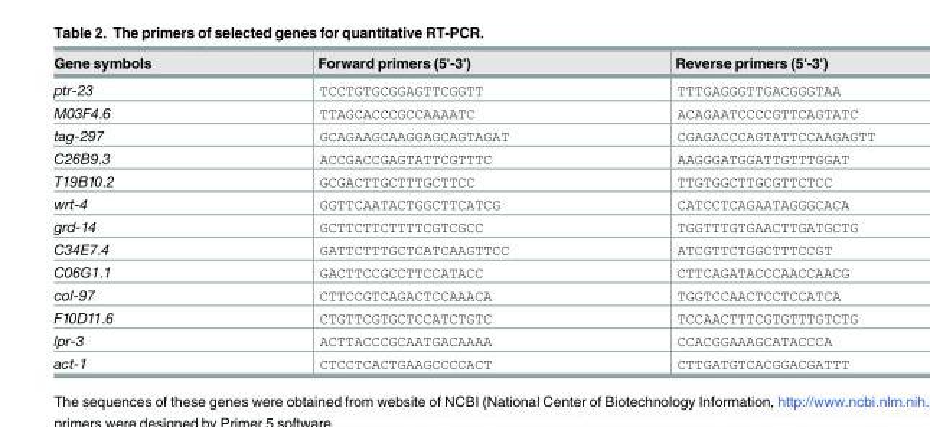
<table><thead><tr><td>Gene symbols</td><td>Forward primers (5&#x27;-3&#x27;)</td><td>Reverse primers (5&#x27;-3&#x27;)</td></tr></thead><tbody><tr><td>ptr-23</td><td>TCCTGTGCGGAGTTCGGTT</td><td>TTTGAGGGTTGACGGGTAA</td></tr><tr><td>M03F4.6</td><td>TTAGCACCCGCCAAAATC</td><td>ACAGAATCCCCGTTCAGTATC</td></tr><tr><td>tag-297</td><td>GCAGAAGCAAGGAGCAGTAGAT</td><td>CGAGACCCAGTATTCCAAGAGTT</td></tr><tr><td>C26B9.3</td><td>ACCGACCGAGTATTCGTTTC</td><td>AAGGGATGGATTGTTTGGAT</td></tr><tr><td>T19B10.2</td><td>GCGACTTGCTTTGCTTCC</td><td>TTGTGGCTTGCGTTCTCC</td></tr><tr><td>wrt-4</td><td>GGTTCAATACTGGCTTCATCG</td><td>CATCCTCAGAATAGGGCACA</td></tr><tr><td>grd-14</td><td>GCTTCTTCTTTTCGTCGCC</td><td>TGGTTTGTGAACTTGATGCTG</td></tr><tr><td>C34E7.4</td><td>GATTCTTTGCTCATCAAGTTCC</td><td>ATCGTTCTGGCTTTCCGT</td></tr><tr><td>C06G1.1</td><td>GACTTCCGCCTTCCATACC</td><td>CTTCAGATACCCAACCAACG</td></tr><tr><td>col-97</td><td>CTTCCGTCAGACTCCAAACA</td><td>TGGTCCAACTCCTCCATCA</td></tr><tr><td>F10D11.6</td><td>CTGTTCGTGCTCCATCTGTC</td><td>TCCAACTTTCGTGTTTGTCTG</td></tr><tr><td>lpr-3</td><td>ACTTACCCGCAATGACAAAA</td><td>CCACGGAAAGCATACCCA</td></tr><tr><td>act-1</td><td>CTCCTCACTGAAGCCCCACT</td><td>CTTGATGTCACGGACGATTT</td></tr></tbody></table>